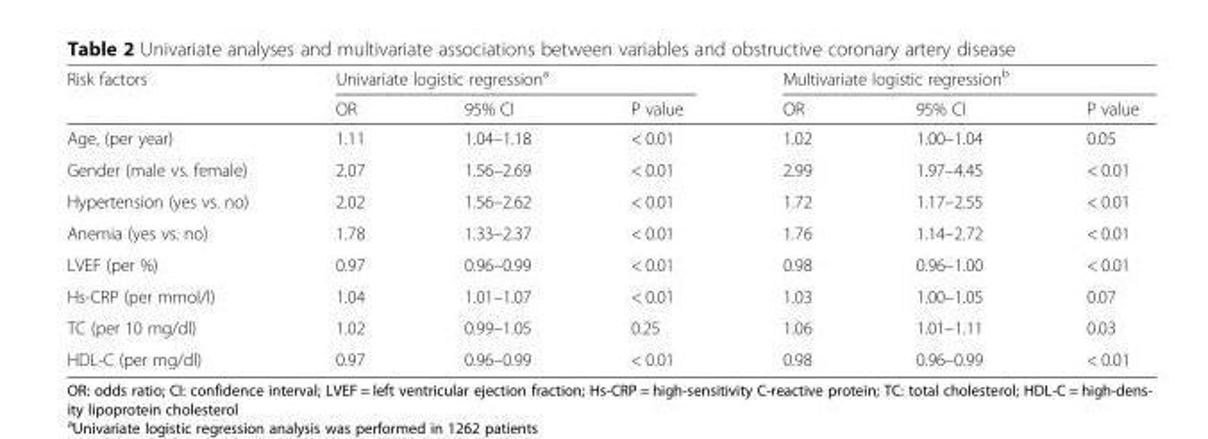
<table><thead><tr><td rowspan="2">Risk factors</td><td colspan="3">Univariate logistic regression<sup>a</sup></td><td colspan="3">Multivariate logistic regression<sup>b</sup></td></tr><tr><td>OR</td><td>95% CI</td><td>P value</td><td>OR</td><td>95% CI</td><td>P value</td></tr></thead><tbody><tr><td>Age, (per year)</td><td>1.11</td><td>1.04–1.18</td><td>&lt; 0.01</td><td>1.02</td><td>1.00–1.04</td><td>0.05</td></tr><tr><td>Gender (male vs. female)</td><td>2.07</td><td>1.56–2.69</td><td>&lt; 0.01</td><td>2.99</td><td>1.97–4.45</td><td>&lt; 0.01</td></tr><tr><td>Hypertension (yes vs. no)</td><td>2.02</td><td>1.56–2.62</td><td>&lt; 0.01</td><td>1.72</td><td>1.17–2.55</td><td>&lt; 0.01</td></tr><tr><td>Anemia (yes vs. no)</td><td>1.78</td><td>1.33–2.37</td><td>&lt; 0.01</td><td>1.76</td><td>1.14–2.72</td><td>&lt; 0.01</td></tr><tr><td>LVEF (per %)</td><td>0.97</td><td>0.96–0.99</td><td>&lt; 0.01</td><td>0.98</td><td>0.96–1.00</td><td>&lt; 0.01</td></tr><tr><td>Hs-CRP (per mmol/l)</td><td>1.04</td><td>1.01–1.07</td><td>&lt; 0.01</td><td>1.03</td><td>1.00–1.05</td><td>0.07</td></tr><tr><td>TC (per 10 mg/dl)</td><td>1.02</td><td>0.99–1.05</td><td>0.25</td><td>1.06</td><td>1.01–1.11</td><td>0.03</td></tr><tr><td>HDL-C (per mg/dl)</td><td>0.97</td><td>0.96–0.99</td><td>&lt; 0.01</td><td>0.98</td><td>0.96–0.99</td><td>&lt; 0.01</td></tr></tbody></table>